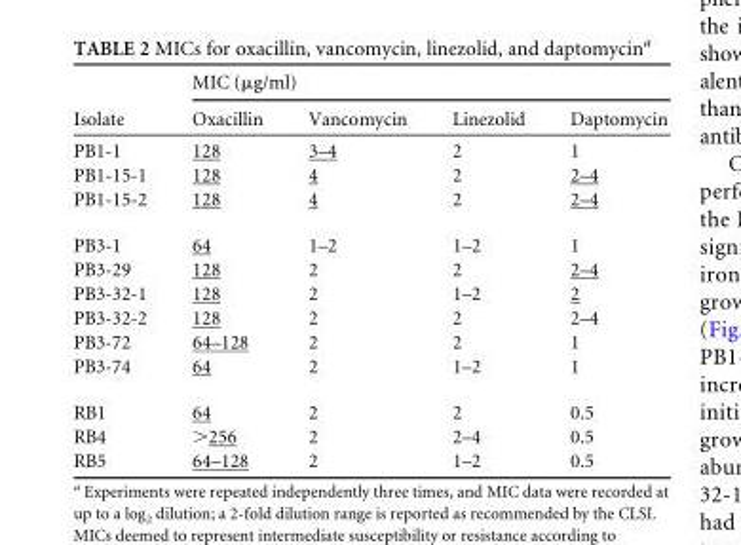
<table><thead><tr><td rowspan="2">Isolate</td><td colspan="4">MIC (μg/ml)</td></tr><tr><td>Oxacillin</td><td>Vancomycin</td><td>Linezolid</td><td>Daptomycin</td></tr></thead><tbody><tr><td>PB1-1</td><td>128</td><td>3–4</td><td>2</td><td>1</td></tr><tr><td>PB1-15-1</td><td>128</td><td>4</td><td>2</td><td>2–4</td></tr><tr><td>PB1-15-2</td><td>128</td><td>4</td><td>2</td><td>2–4</td></tr><tr><td>PB3-1</td><td>64</td><td>1–2</td><td>1–2</td><td>1</td></tr><tr><td>PB3-29</td><td>128</td><td>2</td><td>2</td><td>2–4</td></tr><tr><td>PB3-32-1</td><td>128</td><td>2</td><td>1–2</td><td>2</td></tr><tr><td>PB3-32-2</td><td>128</td><td>2</td><td>2</td><td>2–4</td></tr><tr><td>PB3-72</td><td>64–128</td><td>2</td><td>2</td><td>1</td></tr><tr><td>PB3-74</td><td>64</td><td>2</td><td>1–2</td><td>1</td></tr><tr><td>RB1</td><td>64</td><td>2</td><td>2</td><td>0.5</td></tr><tr><td>RB4</td><td>&gt;256</td><td>2</td><td>2–4</td><td>0.5</td></tr><tr><td>RB5</td><td>64–128</td><td>2</td><td>1–2</td><td>0.5</td></tr></tbody></table>